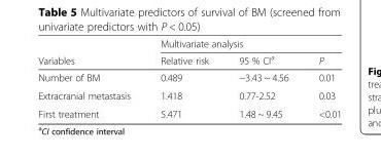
<table><thead><tr><td rowspan="2">Variables</td><td colspan="3">Multivariate analysis</td></tr><tr><td>Relative risk</td><td>95 % CI<sup>a</sup></td><td>P</td></tr></thead><tbody><tr><td>Number of BM</td><td>0.489</td><td>−3.43 ~ 4.56</td><td>0.01</td></tr><tr><td>Extracranial metastasis</td><td>1.418</td><td>0.77-2.52</td><td>0.03</td></tr><tr><td>First treatment</td><td>5.471</td><td>1.48 ~ 9.45</td><td>&lt;0.01</td></tr></tbody></table>